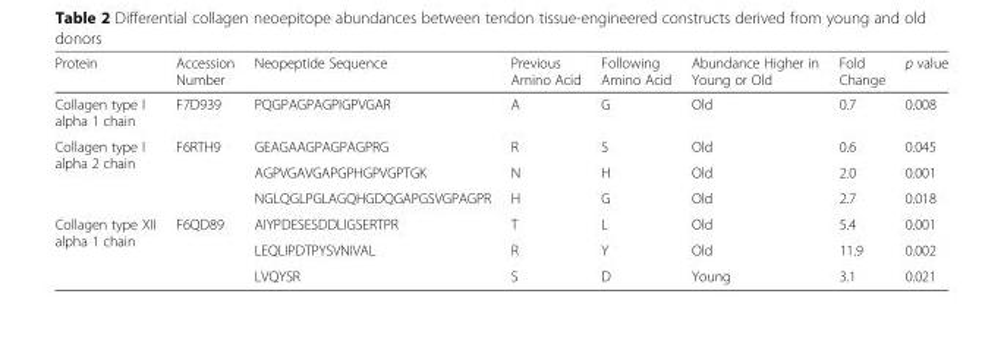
<table><thead><tr><td>Protein</td><td>Accession Number</td><td>Neopeptide Sequence</td><td>Previous Amino Acid</td><td>Following Amino Acid</td><td>Abundance Higher in Young or Old</td><td>Fold Change</td><td>p value</td></tr></thead><tbody><tr><td>Collagen type I alpha 1 chain</td><td>F7D939</td><td>PQGPAGPAGPIGPVGAR</td><td>A</td><td>G</td><td>Old</td><td>0.7</td><td>0.008</td></tr><tr><td rowspan="3">Collagen type I alpha 2 chain</td><td rowspan="3">F6RTH9</td><td>GEAGAAGPAGPAGPRG</td><td>R</td><td>S</td><td>Old</td><td>0.6</td><td>0.045</td></tr><tr><td>AGPVGAVGAPGPHGPVGPTGK</td><td>N</td><td>H</td><td>Old</td><td>2.0</td><td>0.001</td></tr><tr><td>NGLQGLPGLAGQHGDQGAPGSVGPAGPR</td><td>H</td><td>G</td><td>Old</td><td>2.7</td><td>0.018</td></tr><tr><td rowspan="3">Collagen type XII alpha 1 chain</td><td rowspan="3">F6QD89</td><td>AIYPDESESDDLIGSERTPR</td><td>T</td><td>L</td><td>Old</td><td>5.4</td><td>0.001</td></tr><tr><td>LEQLIPDTPYSVNIVAL</td><td>R</td><td>Y</td><td>Old</td><td>11.9</td><td>0.002</td></tr><tr><td>LVQYSR</td><td>S</td><td>D</td><td>Young</td><td>3.1</td><td>0.021</td></tr></tbody></table>